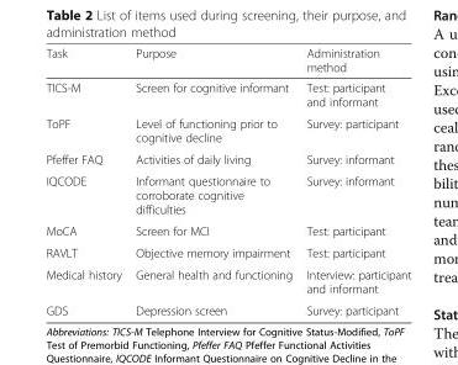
<table><thead><tr><td>Task</td><td>Purpose</td><td>Administration method</td></tr></thead><tbody><tr><td>TICS-M</td><td>Screen for cognitive informant</td><td>Test: participant and informant</td></tr><tr><td>ToPF</td><td>Level of functioning prior to cognitive decline</td><td>Survey: participant</td></tr><tr><td>Pfeffer FAQ</td><td>Activities of daily living</td><td>Survey: informant</td></tr><tr><td>IQCODE</td><td>Informant questionnaire to corroborate cognitive difficulties</td><td>Survey: informant</td></tr><tr><td>MoCA</td><td>Screen for MCI</td><td>Test: participant</td></tr><tr><td>RAVLT</td><td>Objective memory impairment</td><td>Test: participant</td></tr><tr><td>Medical history</td><td>General health and functioning</td><td>Interview: participant and informant</td></tr><tr><td>GDS</td><td>Depression screen</td><td>Survey: participant</td></tr></tbody></table>